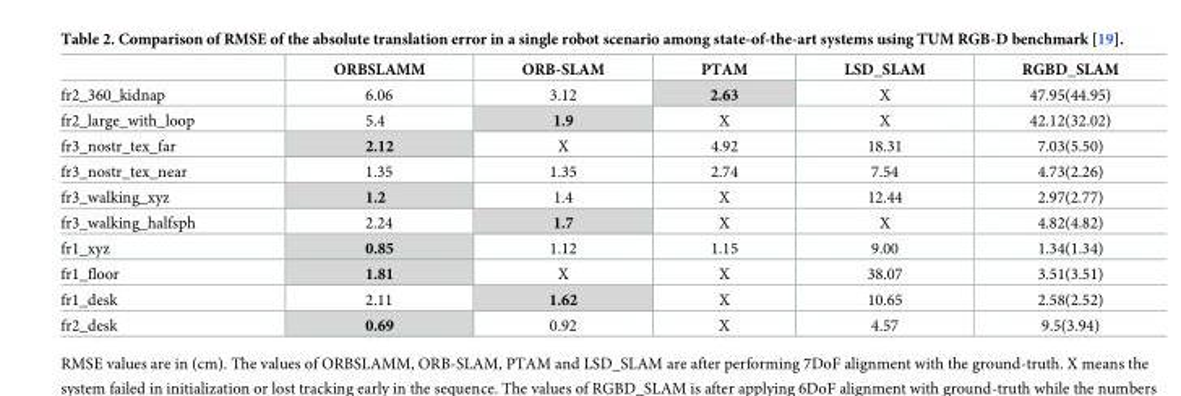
<table><thead><tr><td></td><td>ORBSLAMM</td><td>ORB-SLAM</td><td>PTAM</td><td>LSD_SLAM</td><td>RGBD_SLAM</td></tr></thead><tbody><tr><td>fr2_360_kidnap</td><td>6.06</td><td>3.12</td><td>2.63</td><td>X</td><td>47.95(44.95)</td></tr><tr><td>fr2_large_with_loop</td><td>5.4</td><td>1.9</td><td>X</td><td>X</td><td>42.12(32.02)</td></tr><tr><td>fr3_nostr_tex_far</td><td>2.12</td><td>X</td><td>4.92</td><td>18.31</td><td>7.03(5.50)</td></tr><tr><td>fr3_nostr_tex_near</td><td>1.35</td><td>1.35</td><td>2.74</td><td>7.54</td><td>4.73(2.26)</td></tr><tr><td>fr3_walking_xyz</td><td>1.2</td><td>1.4</td><td>X</td><td>12.44</td><td>2.97(2.77)</td></tr><tr><td>fr3_walking_halfsph</td><td>2.24</td><td>1.7</td><td>X</td><td>X</td><td>4.82(4.82)</td></tr><tr><td>fr1_xyz</td><td>0.85</td><td>1.12</td><td>1.15</td><td>9.00</td><td>1.34(1.34)</td></tr><tr><td>fr1_floor</td><td>1.81</td><td>X</td><td>X</td><td>38.07</td><td>3.51(3.51)</td></tr><tr><td>fr1_desk</td><td>2.11</td><td>1.62</td><td>X</td><td>10.65</td><td>2.58(2.52)</td></tr><tr><td>fr2_desk</td><td>0.69</td><td>0.92</td><td>X</td><td>4.57</td><td>9.5(3.94)</td></tr></tbody></table>